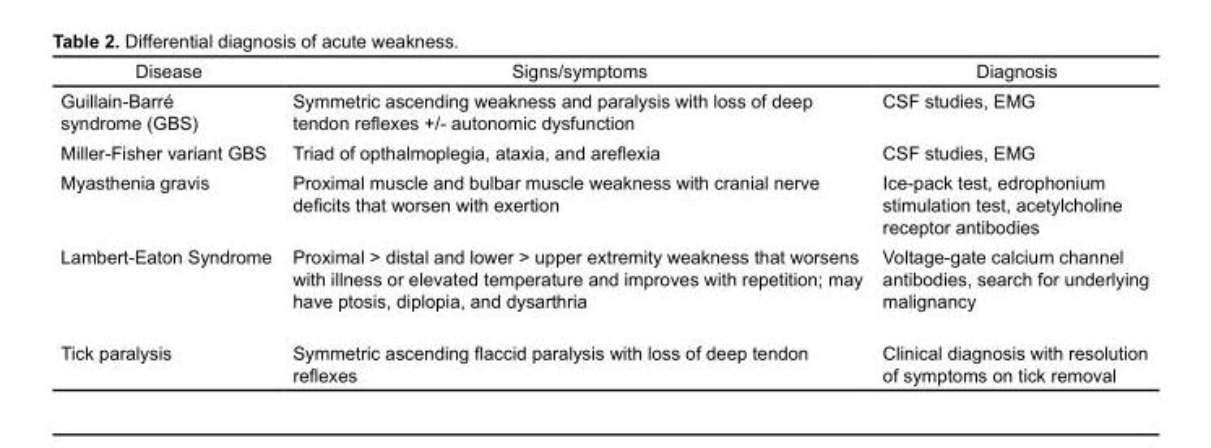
<table><thead><tr><td>Disease</td><td>Signs/symptoms</td><td>Diagnosis</td></tr></thead><tbody><tr><td>Guillain-Barré syndrome (GBS)</td><td>Symmetric ascending weakness and paralysis with loss of deep tendon reflexes +/- autonomic dysfunction</td><td>CSF studies, EMG</td></tr><tr><td>Miller-Fisher variant GBS</td><td>Triad of opthalmoplegia, ataxia, and areflexia</td><td>CSF studies, EMG</td></tr><tr><td>Myasthenia gravis</td><td>Proximal muscle and bulbar muscle weakness with cranial nerve deficits that worsen with exertion</td><td>Ice-pack test, edrophonium stimulation test, acetylcholine receptor antibodies</td></tr><tr><td>Lambert-Eaton Syndrome</td><td>Proximal &gt; distal and lower &gt; upper extremity weakness that worsens with illness or elevated temperature and improves with repetition; may have ptosis, diplopia, and dysarthria</td><td>Voltage-gate calcium channel antibodies, search for underlying malignancy</td></tr><tr><td>Tick paralysis</td><td>Symmetric ascending flaccid paralysis with loss of deep tendon reflexes</td><td>Clinical diagnosis with resolution of symptoms on tick removal</td></tr></tbody></table>